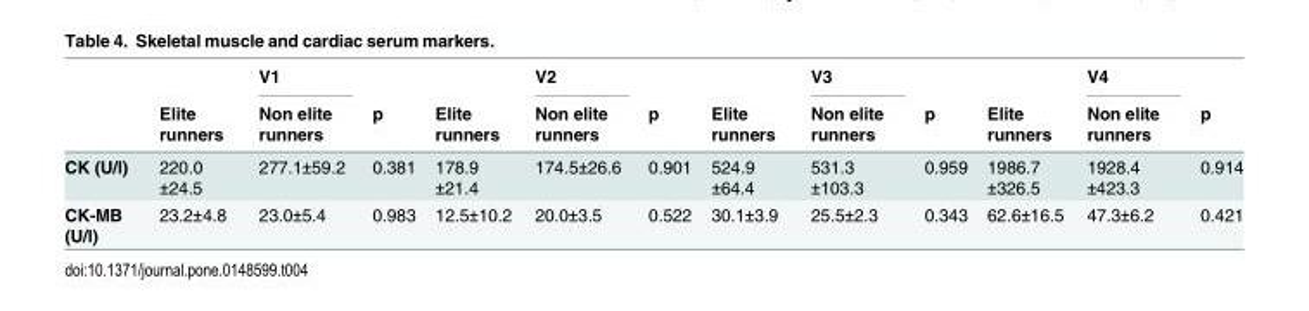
<table><thead><tr><td rowspan="2"></td><td rowspan="2">Elite runners</td><td rowspan="2">V1 Non elite runners</td><td rowspan="2">p</td><td rowspan="2">Elite runners</td><td rowspan="2">V2 Non elite runners</td><td rowspan="2">p</td><td rowspan="2">Elite runners</td><td rowspan="2">V3 Non elite runners</td><td rowspan="2">p</td><td rowspan="2">Elite runners</td><td rowspan="2">V4 Non elite runners</td><td rowspan="2">p</td></tr><tr></tr></thead><tbody><tr><td>CK (U/l)</td><td>220.0 ±24.5</td><td>277.1±59.2</td><td>0.381</td><td>178.9 ±21.4</td><td>174.5±26.6</td><td>0.901</td><td>524.9 ±64.4</td><td>531.3 ±103.3</td><td>0.959</td><td>1986.7 ±326.5</td><td>1928.4 ±423.3</td><td>0.914</td></tr><tr><td>CK-MB (U/l)</td><td>23.2±4.8</td><td>23.0±5.4</td><td>0.983</td><td>12.5±10.2</td><td>20.0±3.5</td><td>0.522</td><td>30.1±3.9</td><td>25.5±2.3</td><td>0.343</td><td>62.6±16.5</td><td>47.3±6.2</td><td>0.421</td></tr></tbody></table>